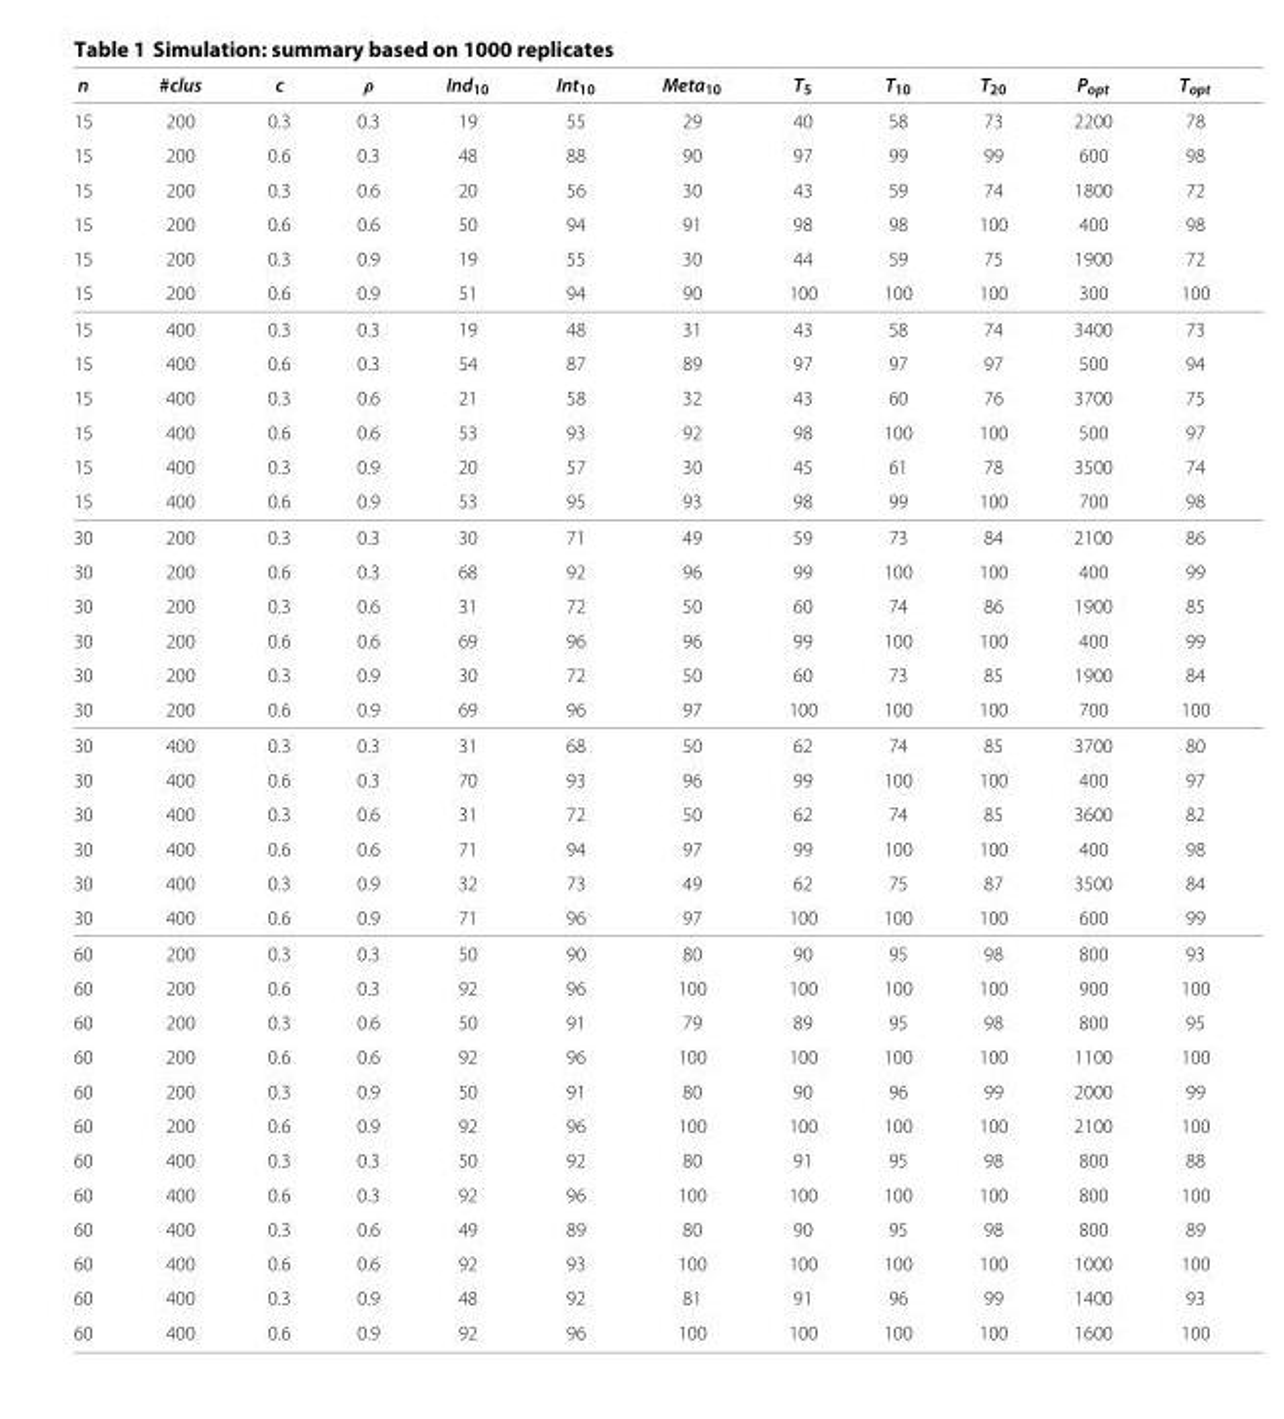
<table><thead><tr><td>n</td><td>#clus</td><td>c</td><td>ρ</td><td>Ind<sub>10</sub></td><td>Int<sub>10</sub></td><td>Meta<sub>10</sub></td><td>T<sub>5</sub></td><td>T<sub>10</sub></td><td>T<sub>20</sub></td><td>P<sub>opt</sub></td><td>T<sub>opt</sub></td></tr></thead><tbody><tr><td>15</td><td>200</td><td>0.3</td><td>0.3</td><td>19</td><td>55</td><td>29</td><td>40</td><td>58</td><td>73</td><td>2200</td><td>78</td></tr><tr><td>15</td><td>200</td><td>0.6</td><td>0.3</td><td>48</td><td>88</td><td>90</td><td>97</td><td>99</td><td>99</td><td>600</td><td>98</td></tr><tr><td>15</td><td>200</td><td>0.3</td><td>0.6</td><td>20</td><td>56</td><td>30</td><td>43</td><td>59</td><td>74</td><td>1800</td><td>72</td></tr><tr><td>15</td><td>200</td><td>0.6</td><td>0.6</td><td>50</td><td>94</td><td>91</td><td>98</td><td>98</td><td>100</td><td>400</td><td>98</td></tr><tr><td>15</td><td>200</td><td>0.3</td><td>0.9</td><td>19</td><td>55</td><td>30</td><td>44</td><td>59</td><td>75</td><td>1900</td><td>72</td></tr><tr><td>15</td><td>200</td><td>0.6</td><td>0.9</td><td>51</td><td>94</td><td>90</td><td>100</td><td>100</td><td>100</td><td>300</td><td>100</td></tr><tr><td>15</td><td>400</td><td>0.3</td><td>0.3</td><td>19</td><td>48</td><td>31</td><td>43</td><td>58</td><td>74</td><td>3400</td><td>73</td></tr><tr><td>15</td><td>400</td><td>0.6</td><td>0.3</td><td>54</td><td>87</td><td>89</td><td>97</td><td>97</td><td>97</td><td>500</td><td>94</td></tr><tr><td>15</td><td>400</td><td>0.3</td><td>0.6</td><td>21</td><td>58</td><td>32</td><td>43</td><td>60</td><td>76</td><td>3700</td><td>75</td></tr><tr><td>15</td><td>400</td><td>0.6</td><td>0.6</td><td>53</td><td>93</td><td>92</td><td>98</td><td>100</td><td>100</td><td>500</td><td>97</td></tr><tr><td>15</td><td>400</td><td>0.3</td><td>0.9</td><td>20</td><td>57</td><td>30</td><td>45</td><td>61</td><td>78</td><td>3500</td><td>74</td></tr><tr><td>15</td><td>400</td><td>0.6</td><td>0.9</td><td>53</td><td>95</td><td>93</td><td>98</td><td>99</td><td>100</td><td>700</td><td>98</td></tr><tr><td>30</td><td>200</td><td>0.3</td><td>0.3</td><td>30</td><td>71</td><td>49</td><td>59</td><td>73</td><td>84</td><td>2100</td><td>86</td></tr><tr><td>30</td><td>200</td><td>0.6</td><td>0.3</td><td>68</td><td>92</td><td>96</td><td>99</td><td>100</td><td>100</td><td>400</td><td>99</td></tr><tr><td>30</td><td>200</td><td>0.3</td><td>0.6</td><td>31</td><td>72</td><td>50</td><td>60</td><td>74</td><td>86</td><td>1900</td><td>85</td></tr><tr><td>30</td><td>200</td><td>0.6</td><td>0.6</td><td>69</td><td>96</td><td>96</td><td>99</td><td>100</td><td>100</td><td>400</td><td>99</td></tr><tr><td>30</td><td>200</td><td>0.3</td><td>0.9</td><td>30</td><td>72</td><td>50</td><td>60</td><td>73</td><td>85</td><td>1900</td><td>84</td></tr><tr><td>30</td><td>200</td><td>0.6</td><td>0.9</td><td>69</td><td>96</td><td>97</td><td>100</td><td>100</td><td>100</td><td>700</td><td>100</td></tr><tr><td>30</td><td>400</td><td>0.3</td><td>0.3</td><td>31</td><td>68</td><td>50</td><td>62</td><td>74</td><td>85</td><td>3700</td><td>80</td></tr><tr><td>30</td><td>400</td><td>0.6</td><td>0.3</td><td>70</td><td>93</td><td>96</td><td>99</td><td>100</td><td>100</td><td>400</td><td>97</td></tr><tr><td>30</td><td>400</td><td>0.3</td><td>0.6</td><td>31</td><td>72</td><td>50</td><td>62</td><td>74</td><td>85</td><td>3600</td><td>82</td></tr><tr><td>30</td><td>400</td><td>0.6</td><td>0.6</td><td>71</td><td>94</td><td>97</td><td>99</td><td>100</td><td>100</td><td>400</td><td>98</td></tr><tr><td>30</td><td>400</td><td>0.3</td><td>0.9</td><td>32</td><td>73</td><td>49</td><td>62</td><td>75</td><td>87</td><td>3500</td><td>84</td></tr><tr><td>30</td><td>400</td><td>0.6</td><td>0.9</td><td>71</td><td>96</td><td>97</td><td>100</td><td>100</td><td>100</td><td>600</td><td>99</td></tr><tr><td>60</td><td>200</td><td>0.3</td><td>0.3</td><td>50</td><td>90</td><td>80</td><td>90</td><td>95</td><td>98</td><td>800</td><td>93</td></tr><tr><td>60</td><td>200</td><td>0.6</td><td>0.3</td><td>92</td><td>96</td><td>100</td><td>100</td><td>100</td><td>100</td><td>900</td><td>100</td></tr><tr><td>60</td><td>200</td><td>0.3</td><td>0.6</td><td>50</td><td>91</td><td>79</td><td>89</td><td>95</td><td>98</td><td>800</td><td>95</td></tr><tr><td>60</td><td>200</td><td>0.6</td><td>0.6</td><td>92</td><td>96</td><td>100</td><td>100</td><td>100</td><td>100</td><td>1100</td><td>100</td></tr><tr><td>60</td><td>200</td><td>0.3</td><td>0.9</td><td>50</td><td>91</td><td>80</td><td>90</td><td>96</td><td>99</td><td>2000</td><td>99</td></tr><tr><td>60</td><td>200</td><td>0.6</td><td>0.9</td><td>92</td><td>96</td><td>100</td><td>100</td><td>100</td><td>100</td><td>2100</td><td>100</td></tr><tr><td>60</td><td>400</td><td>0.3</td><td>0.3</td><td>50</td><td>92</td><td>80</td><td>91</td><td>95</td><td>98</td><td>800</td><td>88</td></tr><tr><td>60</td><td>400</td><td>0.6</td><td>0.3</td><td>92</td><td>96</td><td>100</td><td>100</td><td>100</td><td>100</td><td>800</td><td>100</td></tr><tr><td>60</td><td>400</td><td>0.3</td><td>0.6</td><td>49</td><td>89</td><td>80</td><td>90</td><td>95</td><td>98</td><td>800</td><td>89</td></tr><tr><td>60</td><td>400</td><td>0.6</td><td>0.6</td><td>92</td><td>93</td><td>100</td><td>100</td><td>100</td><td>100</td><td>1000</td><td>100</td></tr><tr><td>60</td><td>400</td><td>0.3</td><td>0.9</td><td>48</td><td>92</td><td>81</td><td>91</td><td>96</td><td>99</td><td>1400</td><td>93</td></tr><tr><td>60</td><td>400</td><td>0.6</td><td>0.9</td><td>92</td><td>96</td><td>100</td><td>100</td><td>100</td><td>100</td><td>1600</td><td>100</td></tr></tbody></table>